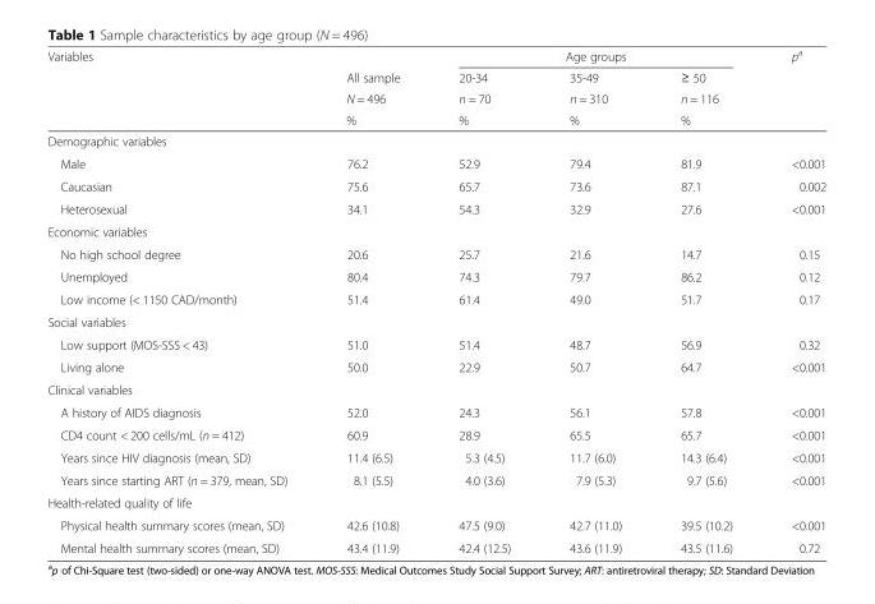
<table><thead><tr><td rowspan="4">Variables</td><td rowspan="4">All sample N = 496 %</td><td colspan="3">Age groups</td><td rowspan="4">p<sup>a</sup></td></tr><tr><td rowspan="3">20-34 n = 70 %</td><td rowspan="3">35-49 n = 310 %</td><td rowspan="3">≥ 50 n = 116 %</td></tr><tr></tr><tr></tr></thead><tbody><tr><td colspan="6">Demographic variables</td></tr><tr><td>Male</td><td>76.2</td><td>52.9</td><td>79.4</td><td>81.9</td><td>&lt;0.001</td></tr><tr><td>Caucasian</td><td>75.6</td><td>65.7</td><td>73.6</td><td>87.1</td><td>0.002</td></tr><tr><td>Heterosexual</td><td>34.1</td><td>54.3</td><td>32.9</td><td>27.6</td><td>&lt;0.001</td></tr><tr><td colspan="6">Economic variables</td></tr><tr><td>No high school degree</td><td>20.6</td><td>25.7</td><td>21.6</td><td>14.7</td><td>0.15</td></tr><tr><td>Unemployed</td><td>80.4</td><td>74.3</td><td>79.7</td><td>86.2</td><td>0.12</td></tr><tr><td>Low income (&lt; 1150 CAD/month)</td><td>51.4</td><td>61.4</td><td>49.0</td><td>51.7</td><td>0.17</td></tr><tr><td colspan="6">Social variables</td></tr><tr><td>Low support (MOS-SSS &lt; 43)</td><td>51.0</td><td>51.4</td><td>48.7</td><td>56.9</td><td>0.32</td></tr><tr><td>Living alone</td><td>50.0</td><td>22.9</td><td>50.7</td><td>64.7</td><td>&lt;0.001</td></tr><tr><td colspan="6">Clinical variables</td></tr><tr><td>A history of AIDS diagnosis</td><td>52.0</td><td>24.3</td><td>56.1</td><td>57.8</td><td>&lt;0.001</td></tr><tr><td>CD4 count &lt; 200 cells/mL (n = 412)</td><td>60.9</td><td>28.9</td><td>65.5</td><td>65.7</td><td>&lt;0.001</td></tr><tr><td>Years since HIV diagnosis (mean, SD)</td><td>11.4 (6.5)</td><td>5.3 (4.5)</td><td>11.7 (6.0)</td><td>14.3 (6.4)</td><td>&lt;0.001</td></tr><tr><td>Years since starting ART (n = 379, mean, SD)</td><td>8.1 (5.5)</td><td>4.0 (3.6)</td><td>7.9 (5.3)</td><td>9.7 (5.6)</td><td>&lt;0.001</td></tr><tr><td colspan="6">Health-related quality of life</td></tr><tr><td>Physical health summary scores (mean, SD)</td><td>42.6 (10.8)</td><td>47.5 (9.0)</td><td>42.7 (11.0)</td><td>39.5 (10.2)</td><td>&lt;0.001</td></tr><tr><td>Mental health summary scores (mean, SD)</td><td>43.4 (11.9)</td><td>42.4 (12.5)</td><td>43.6 (11.9)</td><td>43.5 (11.6)</td><td>0.72</td></tr></tbody></table>